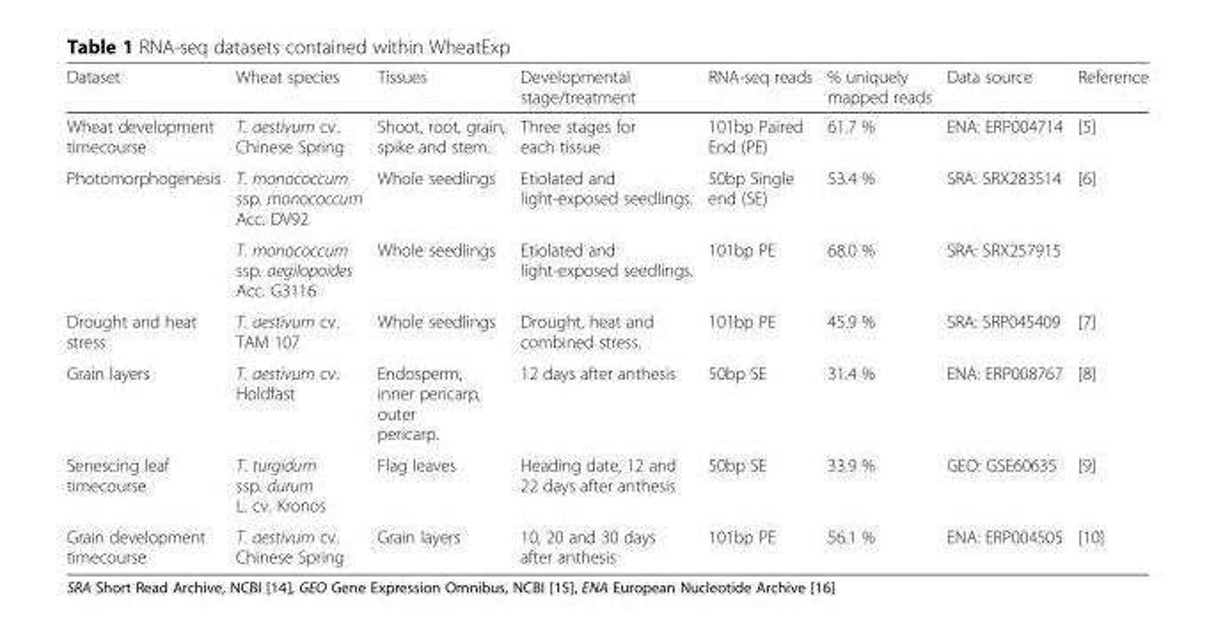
<table><thead><tr><td>Dataset</td><td>Wheat species</td><td>Tissues</td><td>Developmental stage/treatment</td><td>RNA-seq reads</td><td>% uniquely mapped reads</td><td>Data source</td><td>Reference</td></tr></thead><tbody><tr><td>Wheat development timecourse</td><td>T. aestivum cv. Chinese Spring</td><td>Shoot, root, grain, spike and stem.</td><td>Three stages for each tissue</td><td>101bp Paired End (PE)</td><td>61.7 %</td><td>ENA: ERP004714</td><td>[5]</td></tr><tr><td rowspan="2">Photomorphogenesis</td><td>T. monococcum ssp. monococcum Acc. DV92</td><td>Whole seedlings</td><td>Etiolated and light-exposed seedlings.</td><td>50bp Single end (SE)</td><td>53.4 %</td><td>SRA: SRX283514</td><td rowspan="2">[6]</td></tr><tr><td>T. monococcum ssp. aegilopoides Acc. G3116</td><td>Whole seedlings</td><td>Etiolated and light-exposed seedlings.</td><td>101bp PE</td><td>68.0 %</td><td>SRA: SRX257915</td></tr><tr><td>Drought and heat stress</td><td>T. aestivum cv. TAM 107</td><td>Whole seedlings</td><td>Drought, heat and combined stress.</td><td>101bp PE</td><td>45.9 %</td><td>SRA: SRP045409</td><td>[7]</td></tr><tr><td>Grain layers</td><td>T. aestivum cv. Holdfast</td><td>Endosperm, inner pericarp, outer pericarp.</td><td>12 days after anthesis</td><td>50bp SE</td><td>31.4 %</td><td>ENA: ERP008767</td><td>[8]</td></tr><tr><td>Senescing leaf timecourse</td><td>T. turgidum ssp. durum L. cv. Kronos</td><td>Flag leaves</td><td>Heading date, 12 and 22 days after anthesis</td><td>50bp SE</td><td>33.9 %</td><td>GEO: GSE60635</td><td>[9]</td></tr><tr><td>Grain development timecourse</td><td>T. aestivum cv. Chinese Spring</td><td>Grain layers</td><td>10, 20 and 30 days after anthesis</td><td>101bp PE</td><td>56.1 %</td><td>ENA: ERP004505</td><td>[10]</td></tr></tbody></table>